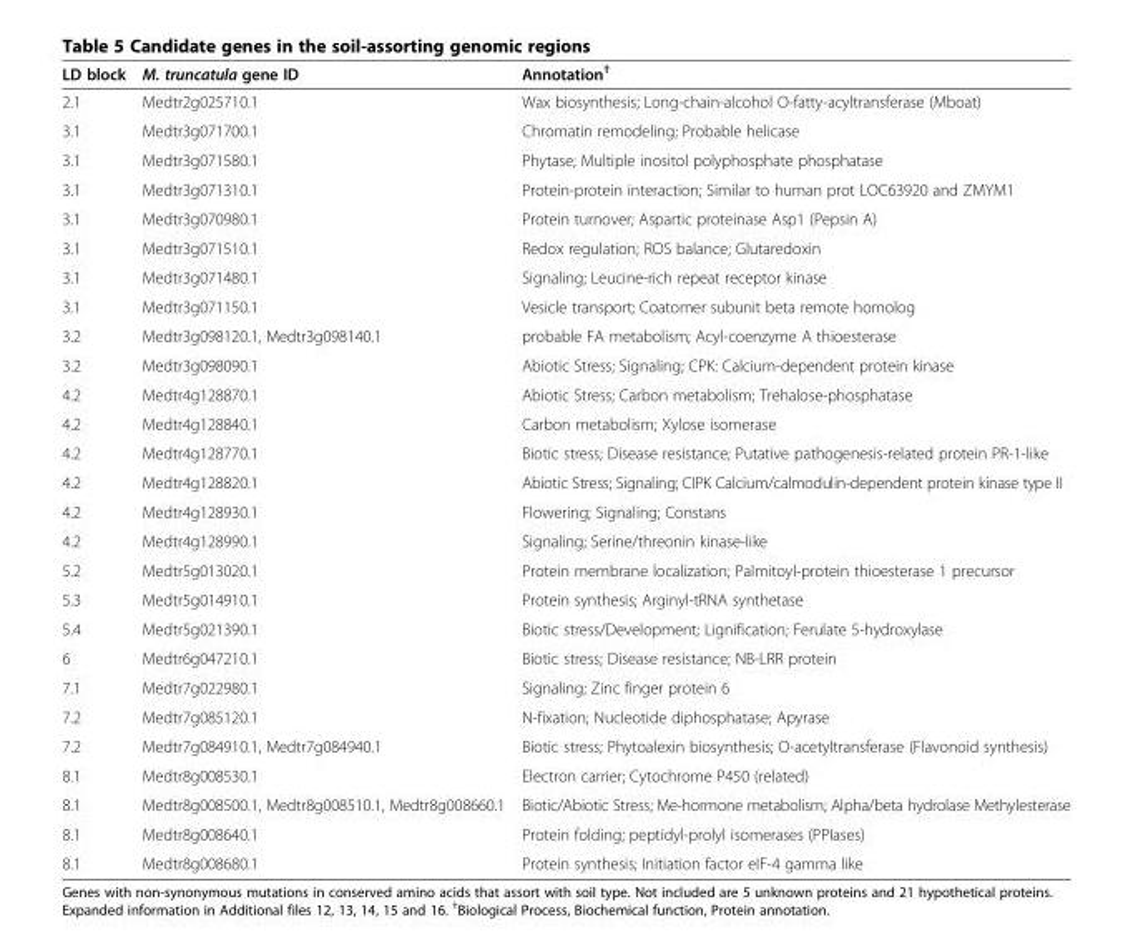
<table><thead><tr><td>LD block</td><td>M. truncatula gene ID</td><td>Annotation<sup>†</sup></td></tr></thead><tbody><tr><td>2.1</td><td>Medtr2g025710.1</td><td>Wax biosynthesis; Long-chain-alcohol O-fatty-acyltransferase (Mboat)</td></tr><tr><td>3.1</td><td>Medtr3g071700.1</td><td>Chromatin remodeling; Probable helicase</td></tr><tr><td>3.1</td><td>Medtr3g071580.1</td><td>Phytase; Multiple inositol polyphosphate phosphatase</td></tr><tr><td>3.1</td><td>Medtr3g071310.1</td><td>Protein-protein interaction; Similar to human prot LOC63920 and ZMYM1</td></tr><tr><td>3.1</td><td>Medtr3g070980.1</td><td>Protein turnover; Aspartic proteinase Asp1 (Pepsin A)</td></tr><tr><td>3.1</td><td>Medtr3g071510.1</td><td>Redox regulation; ROS balance; Glutaredoxin</td></tr><tr><td>3.1</td><td>Medtr3g071480.1</td><td>Signaling; Leucine-rich repeat receptor kinase</td></tr><tr><td>3.1</td><td>Medtr3g071150.1</td><td>Vesicle transport; Coatomer subunit beta remote homolog</td></tr><tr><td>3.2</td><td>Medtr3g098120.1, Medtr3g098140.1</td><td>probable FA metabolism; Acyl-coenzyme A thioesterase</td></tr><tr><td>3.2</td><td>Medtr3g098090.1</td><td>Abiotic Stress; Signaling; CPK: Calcium-dependent protein kinase</td></tr><tr><td>4.2</td><td>Medtr4g128870.1</td><td>Abiotic Stress; Carbon metabolism; Trehalose-phosphatase</td></tr><tr><td>4.2</td><td>Medtr4g128840.1</td><td>Carbon metabolism; Xylose isomerase</td></tr><tr><td>4.2</td><td>Medtr4g128770.1</td><td>Biotic stress; Disease resistance; Putative pathogenesis-related protein PR-1-like</td></tr><tr><td>4.2</td><td>Medtr4g128820.1</td><td>Abiotic Stress; Signaling; CIPK Calcium/calmodulin-dependent protein kinase type II</td></tr><tr><td>4.2</td><td>Medtr4g128930.1</td><td>Flowering; Signaling; Constans</td></tr><tr><td>4.2</td><td>Medtr4g128990.1</td><td>Signaling; Serine/threonin kinase-like</td></tr><tr><td>5.2</td><td>Medtr5g013020.1</td><td>Protein membrane localization; Palmitoyl-protein thioesterase 1 precursor</td></tr><tr><td>5.3</td><td>Medtr5g014910.1</td><td>Protein synthesis; Arginyl-tRNA synthetase</td></tr><tr><td>5.4</td><td>Medtr5g021390.1</td><td>Biotic stress/Development; Lignification; Ferulate 5-hydroxylase</td></tr><tr><td>6</td><td>Medtr6g047210.1</td><td>Biotic stress; Disease resistance; NB-LRR protein</td></tr><tr><td>7.1</td><td>Medtr7g022980.1</td><td>Signaling; Zinc finger protein 6</td></tr><tr><td>7.2</td><td>Medtr7g085120.1</td><td>N-fixation; Nucleotide diphosphatase; Apyrase</td></tr><tr><td>7.2</td><td>Medtr7g084910.1, Medtr7g084940.1</td><td>Biotic stress; Phytoalexin biosynthesis; O-acetyltransferase (Flavonoid synthesis)</td></tr><tr><td>8.1</td><td>Medtr8g008530.1</td><td>Electron carrier; Cytochrome P450 (related)</td></tr><tr><td>8.1</td><td>Medtr8g008500.1, Medtr8g008510.1, Medtr8g008660.1</td><td>Biotic/Abiotic Stress; Me-hormone metabolism; Alpha/beta hydrolase Methylesterase</td></tr><tr><td>8.1</td><td>Medtr8g008640.1</td><td>Protein folding; peptidyl-prolyl isomerases (PPIases)</td></tr><tr><td>8.1</td><td>Medtr8g008680.1</td><td>Protein synthesis; Initiation factor eIF-4 gamma like</td></tr></tbody></table>